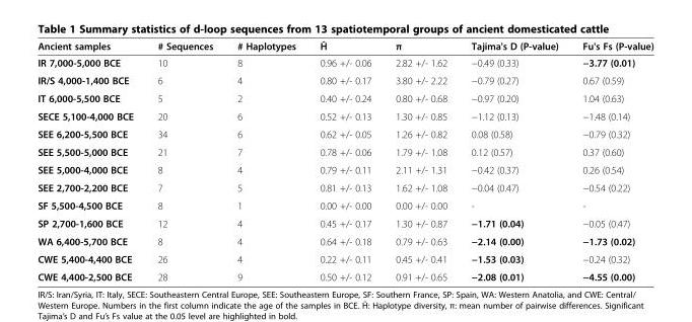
<table><thead><tr><td>Ancient samples</td><td># Sequences</td><td># Haplotypes</td><td>Ĥ</td><td>π</td><td>Tajima&#x27;s D (P-value)</td><td>Fu&#x27;s Fs (P-value)</td></tr></thead><tbody><tr><td>IR 7,000-5,000 BCE</td><td>10</td><td>8</td><td>0.96 +/- 0.06</td><td>2.82 +/- 1.62</td><td>−0.49 (0.33)</td><td>−3.77 (0.01)</td></tr><tr><td>IR/S 4,000-1,400 BCE</td><td>6</td><td>4</td><td>0.80 +/- 0.17</td><td>3.80 +/- 2.22</td><td>−0.79 (0.27)</td><td>0.67 (0.59)</td></tr><tr><td>IT 6,000-5,500 BCE</td><td>5</td><td>2</td><td>0.40 +/- 0.24</td><td>0.80 +/- 0.68</td><td>−0.97 (0.20)</td><td>1.04 (0.63)</td></tr><tr><td>SECE 5,100-4,000 BCE</td><td>20</td><td>6</td><td>0.52 +/- 0.13</td><td>1.30 +/- 0.85</td><td>−1.12 (0.13)</td><td>−1.48 (0.14)</td></tr><tr><td>SEE 6,200-5,500 BCE</td><td>34</td><td>6</td><td>0.62 +/- 0.05</td><td>1.26 +/- 0.82</td><td>0.08 (0.58)</td><td>−0.79 (0.32)</td></tr><tr><td>SEE 5,500-5,000 BCE</td><td>21</td><td>7</td><td>0.78 +/- 0.06</td><td>1.79 +/- 1.08</td><td>0.12 (0.57)</td><td>0.37 (0.60)</td></tr><tr><td>SEE 5,000-4,000 BCE</td><td>8</td><td>4</td><td>0.79 +/- 0.11</td><td>2.11 +/- 1.31</td><td>−0.42 (0.37)</td><td>0.26 (0.54)</td></tr><tr><td>SEE 2,700-2,200 BCE</td><td>7</td><td>5</td><td>0.81 +/- 0.13</td><td>1.62 +/- 1.08</td><td>−0.04 (0.47)</td><td>−0.54 (0.22)</td></tr><tr><td>SF 5,500-4,500 BCE</td><td>8</td><td>1</td><td>0.00 +/- 0.00</td><td>0.00 +/- 0.00</td><td>-</td><td>-</td></tr><tr><td>SP 2,700-1,600 BCE</td><td>12</td><td>4</td><td>0.45 +/- 0.17</td><td>1.30 +/- 0.87</td><td>−1.71 (0.04)</td><td>−0.05 (0.47)</td></tr><tr><td>WA 6,400-5,700 BCE</td><td>8</td><td>4</td><td>0.64 +/- 0.18</td><td>0.79 +/- 0.63</td><td>−2.14 (0.00)</td><td>−1.73 (0.02)</td></tr><tr><td>CWE 5,400-4,400 BCE</td><td>26</td><td>4</td><td>0.22 +/- 0.11</td><td>0.45 +/- 0.41</td><td>−1.53 (0.03)</td><td>−0.24 (0.32)</td></tr><tr><td>CWE 4,400-2,500 BCE</td><td>28</td><td>9</td><td>0.50 +/- 0.12</td><td>0.91 +/- 0.65</td><td>−2.08 (0.01)</td><td>−4.55 (0.00)</td></tr></tbody></table>